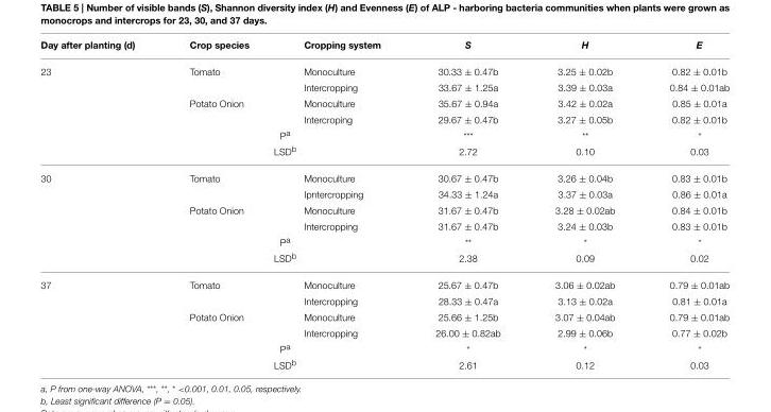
<table><thead><tr><td>Day after planting (d)</td><td>Crop species</td><td>Cropping system</td><td>S</td><td>H</td><td>E</td></tr></thead><tbody><tr><td rowspan="6">23</td><td>Tomato</td><td>Monoculture</td><td>30.33 ± 0.47b</td><td>3.25 ± 0.02b</td><td>0.82 ± 0.01b</td></tr><tr><td></td><td>Intercropping</td><td>33.67 ± 1.25a</td><td>3.39 ± 0.03a</td><td>0.84 ± 0.01ab</td></tr><tr><td>Potato Onion</td><td>Monoculture</td><td>35.67 ± 0.94a</td><td>3.42 ± 0.02a</td><td>0.85 ± 0.01a</td></tr><tr><td></td><td>Intercroping</td><td>29.67 ± 0.47b</td><td>3.27 ± 0.05b</td><td>0.82 ± 0.01b</td></tr><tr><td colspan="2">P<sup>a</sup></td><td>***</td><td>**</td><td>*</td></tr><tr><td colspan="2">LSD<sup>b</sup></td><td>2.72</td><td>0.10</td><td>0.03</td></tr><tr><td rowspan="6">30</td><td>Tomato</td><td>Monoculture</td><td>30.67 ± 0.47b</td><td>3.26 ± 0.04b</td><td>0.83 ± 0.01b</td></tr><tr><td></td><td>Ipntercropping</td><td>34.33 ± 1.24a</td><td>3.37 ± 0.03a</td><td>0.86 ± 0.01a</td></tr><tr><td>Potato Onion</td><td>Monoculture</td><td>31.67 ± 0.47b</td><td>3.28 ± 0.02ab</td><td>0.84 ± 0.01b</td></tr><tr><td></td><td>Intercropping</td><td>31.67 ± 0.47b</td><td>3.24 ± 0.03b</td><td>0.83 ± 0.01b</td></tr><tr><td colspan="2">P<sup>a</sup></td><td>**</td><td>*</td><td>*</td></tr><tr><td colspan="2">LSD<sup>b</sup></td><td>2.38</td><td>0.09</td><td>0.02</td></tr><tr><td rowspan="6">37</td><td>Tomato</td><td>Monoculture</td><td>25.67 ± 0.47b</td><td>3.06 ± 0.02ab</td><td>0.79 ± 0.01ab</td></tr><tr><td></td><td>Intercropping</td><td>28.33 ± 0.47a</td><td>3.13 ± 0.02a</td><td>0.81 ± 0.01a</td></tr><tr><td>Potato Onion</td><td>Monoculture</td><td>25.66 ± 1.25b</td><td>3.07 ± 0.04ab</td><td>0.79 ± 0.01ab</td></tr><tr><td></td><td>Intercropping</td><td>26.00 ± 0.82ab</td><td>2.99 ± 0.06b</td><td>0.77 ± 0.02b</td></tr><tr><td colspan="2">P<sup>a</sup></td><td>*</td><td>*</td><td>*</td></tr><tr><td colspan="2">LSD<sup>b</sup></td><td>2.61</td><td>0.12</td><td>0.03</td></tr></tbody></table>